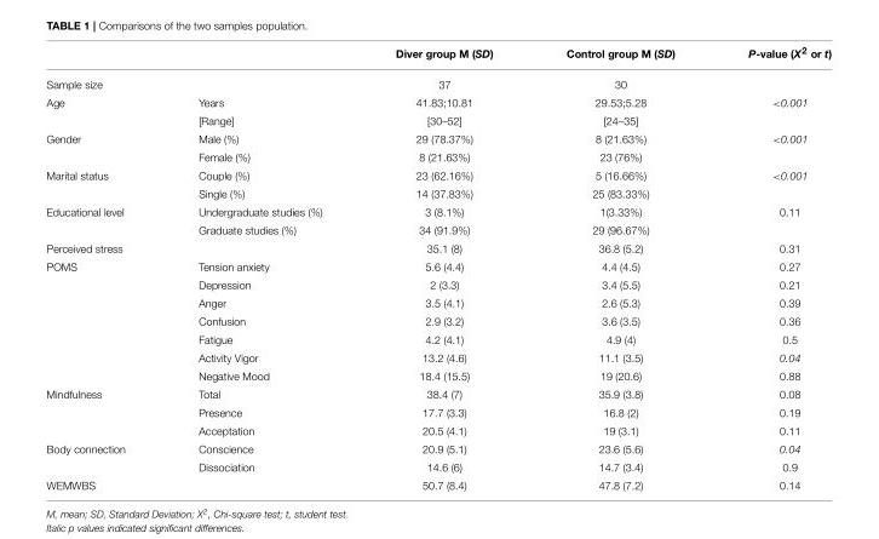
<table><thead><tr><td></td><td></td><td>Diver group M (SD)</td><td>Control group M (SD)</td><td>P-value (X<sup>2</sup> or t)</td></tr></thead><tbody><tr><td>Sample size</td><td></td><td>37</td><td>30</td><td></td></tr><tr><td rowspan="2">Age</td><td>Years</td><td>41.83;10.81</td><td>29.53;5.28</td><td>&lt;0.001</td></tr><tr><td>[Range]</td><td>[30–52]</td><td>[24–35]</td><td></td></tr><tr><td rowspan="2">Gender</td><td>Male (%)</td><td>29 (78.37%)</td><td>8 (21.63%)</td><td>&lt;0.001</td></tr><tr><td>Female (%)</td><td>8 (21.63%)</td><td>23 (76%)</td><td></td></tr><tr><td rowspan="2">Marital status</td><td>Couple (%)</td><td>23 (62.16%)</td><td>5 (16.66%)</td><td>&lt;0.001</td></tr><tr><td>Single (%)</td><td>14 (37.83%)</td><td>25 (83.33%)</td><td></td></tr><tr><td rowspan="2">Educational level</td><td>Undergraduate studies (%)</td><td>3 (8.1%)</td><td>1(3.33%)</td><td>0.11</td></tr><tr><td>Graduate studies (%)</td><td>34 (91.9%)</td><td>29 (96.67%)</td><td></td></tr><tr><td>Perceived stress</td><td></td><td>35.1 (8)</td><td>36.8 (5.2)</td><td>0.31</td></tr><tr><td rowspan="7">POMS</td><td>Tension anxiety</td><td>5.6 (4.4)</td><td>4.4 (4.5)</td><td>0.27</td></tr><tr><td>Depression</td><td>2 (3.3)</td><td>3.4 (5.5)</td><td>0.21</td></tr><tr><td>Anger</td><td>3.5 (4.1)</td><td>2.6 (5.3)</td><td>0.39</td></tr><tr><td>Confusion</td><td>2.9 (3.2)</td><td>3.6 (3.5)</td><td>0.36</td></tr><tr><td>Fatigue</td><td>4.2 (4.1)</td><td>4.9 (4)</td><td>0.5</td></tr><tr><td>Activity Vigor</td><td>13.2 (4.6)</td><td>11.1 (3.5)</td><td>0.04</td></tr><tr><td>Negative Mood</td><td>18.4 (15.5)</td><td>19 (20.6)</td><td>0.88</td></tr><tr><td rowspan="3">Mindfulness</td><td>Total</td><td>38.4 (7)</td><td>35.9 (3.8)</td><td>0.08</td></tr><tr><td>Presence</td><td>17.7 (3.3)</td><td>16.8 (2)</td><td>0.19</td></tr><tr><td>Acceptation</td><td>20.5 (4.1)</td><td>19 (3.1)</td><td>0.11</td></tr><tr><td rowspan="2">Body connection</td><td>Conscience</td><td>20.9 (5.1)</td><td>23.6 (5.6)</td><td>0.04</td></tr><tr><td>Dissociation</td><td>14.6 (6)</td><td>14.7 (3.4)</td><td>0.9</td></tr><tr><td>WEMWBS</td><td></td><td>50.7 (8.4)</td><td>47.8 (7.2)</td><td>0.14</td></tr></tbody></table>